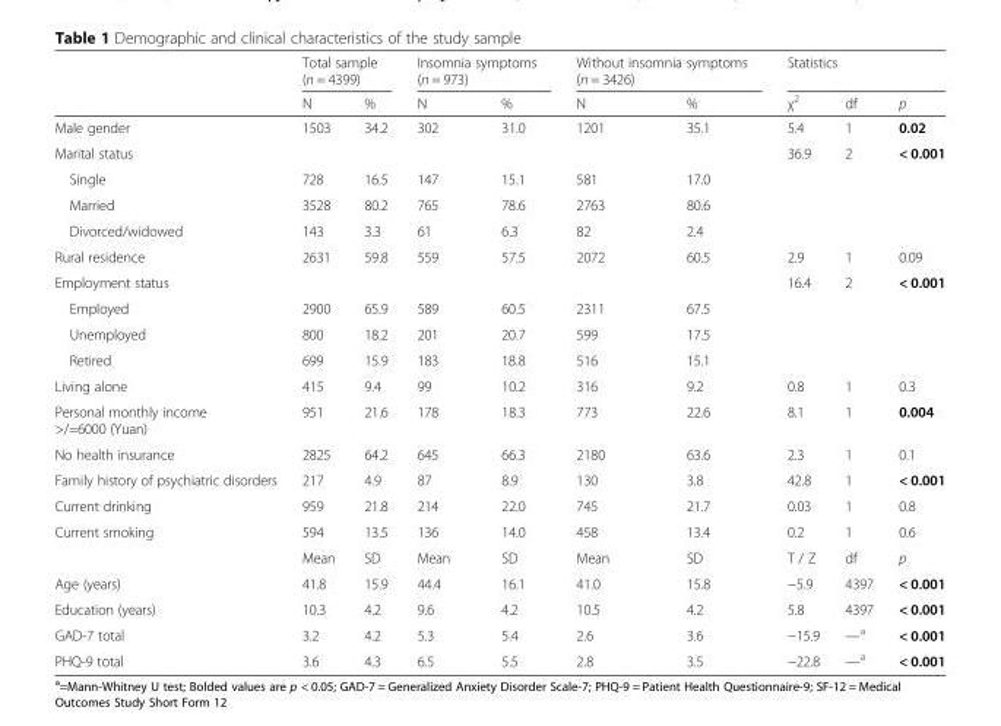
<table><thead><tr><td rowspan="2"></td><td colspan="2">Total sample (n = 4399)</td><td colspan="2">Insomnia symptoms (n = 973)</td><td colspan="2">Without insomnia symptoms (n = 3426)</td><td colspan="3">Statistics</td></tr><tr><td>N</td><td>%</td><td>N</td><td>%</td><td>N</td><td>%</td><td>χ<sup>2</sup></td><td>df</td><td>p</td></tr></thead><tbody><tr><td>Male gender</td><td>1503</td><td>34.2</td><td>302</td><td>31.0</td><td>1201</td><td>35.1</td><td>5.4</td><td>1</td><td>0.02</td></tr><tr><td colspan="7">Marital status</td><td>36.9</td><td>2</td><td>&lt; 0.001</td></tr><tr><td>Single</td><td>728</td><td>16.5</td><td>147</td><td>15.1</td><td>581</td><td>17.0</td><td></td><td></td><td></td></tr><tr><td>Married</td><td>3528</td><td>80.2</td><td>765</td><td>78.6</td><td>2763</td><td>80.6</td><td></td><td></td><td></td></tr><tr><td>Divorced/widowed</td><td>143</td><td>3.3</td><td>61</td><td>6.3</td><td>82</td><td>2.4</td><td></td><td></td><td></td></tr><tr><td>Rural residence</td><td>2631</td><td>59.8</td><td>559</td><td>57.5</td><td>2072</td><td>60.5</td><td>2.9</td><td>1</td><td>0.09</td></tr><tr><td colspan="7">Employment status</td><td>16.4</td><td>2</td><td>&lt; 0.001</td></tr><tr><td>Employed</td><td>2900</td><td>65.9</td><td>589</td><td>60.5</td><td>2311</td><td>67.5</td><td></td><td></td><td></td></tr><tr><td>Unemployed</td><td>800</td><td>18.2</td><td>201</td><td>20.7</td><td>599</td><td>17.5</td><td></td><td></td><td></td></tr><tr><td>Retired</td><td>699</td><td>15.9</td><td>183</td><td>18.8</td><td>516</td><td>15.1</td><td></td><td></td><td></td></tr><tr><td>Living alone</td><td>415</td><td>9.4</td><td>99</td><td>10.2</td><td>316</td><td>9.2</td><td>0.8</td><td>1</td><td>0.3</td></tr><tr><td>Personal monthly income &gt;/=6000 (Yuan)</td><td>951</td><td>21.6</td><td>178</td><td>18.3</td><td>773</td><td>22.6</td><td>8.1</td><td>1</td><td>0.004</td></tr><tr><td>No health insurance</td><td>2825</td><td>64.2</td><td>645</td><td>66.3</td><td>2180</td><td>63.6</td><td>2.3</td><td>1</td><td>0.1</td></tr><tr><td>Family history of psychiatric disorders</td><td>217</td><td>4.9</td><td>87</td><td>8.9</td><td>130</td><td>3.8</td><td>42.8</td><td>1</td><td>&lt; 0.001</td></tr><tr><td>Current drinking</td><td>959</td><td>21.8</td><td>214</td><td>22.0</td><td>745</td><td>21.7</td><td>0.03</td><td>1</td><td>0.8</td></tr><tr><td rowspan="2">Current smoking</td><td>594</td><td>13.5</td><td>136</td><td>14.0</td><td>458</td><td>13.4</td><td>0.2</td><td>1</td><td>0.6</td></tr><tr><td>Mean</td><td>SD</td><td>Mean</td><td>SD</td><td>Mean</td><td>SD</td><td>T / Z</td><td>df</td><td>p</td></tr><tr><td>Age (years)</td><td>41.8</td><td>15.9</td><td>44.4</td><td>16.1</td><td>41.0</td><td>15.8</td><td>−5.9</td><td>4397</td><td>&lt; 0.001</td></tr><tr><td>Education (years)</td><td>10.3</td><td>4.2</td><td>9.6</td><td>4.2</td><td>10.5</td><td>4.2</td><td>5.8</td><td>4397</td><td>&lt; 0.001</td></tr><tr><td>GAD-7 total</td><td>3.2</td><td>4.2</td><td>5.3</td><td>5.4</td><td>2.6</td><td>3.6</td><td>−15.9</td><td>—a</td><td>&lt; 0.001</td></tr><tr><td>PHQ-9 total</td><td>3.6</td><td>4.3</td><td>6.5</td><td>5.5</td><td>2.8</td><td>3.5</td><td>−22.8</td><td>—a</td><td>&lt; 0.001</td></tr></tbody></table>